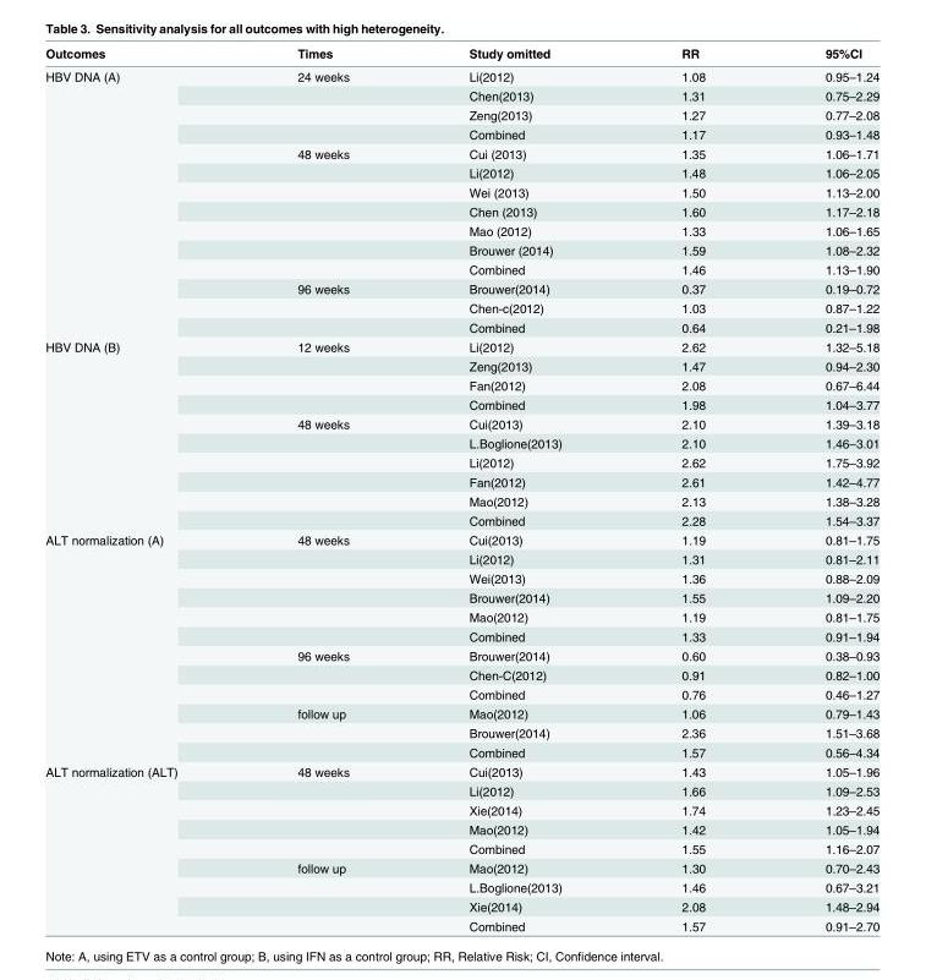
<table><thead><tr><td>Outcomes</td><td>Times</td><td>Study omitted</td><td>RR</td><td>95%CI</td></tr></thead><tbody><tr><td rowspan="14">HBV DNA (A)</td><td>24 weeks</td><td>Li(2012)</td><td>1.08</td><td>0.95–1.24</td></tr><tr><td></td><td>Chen(2013)</td><td>1.31</td><td>0.75–2.29</td></tr><tr><td></td><td>Zeng(2013)</td><td>1.27</td><td>0.77–2.08</td></tr><tr><td></td><td>Combined</td><td>1.17</td><td>0.93–1.48</td></tr><tr><td>48 weeks</td><td>Cui (2013)</td><td>1.35</td><td>1.06–1.71</td></tr><tr><td></td><td>Li(2012)</td><td>1.48</td><td>1.06–2.05</td></tr><tr><td></td><td>Wei (2013)</td><td>1.50</td><td>1.13–2.00</td></tr><tr><td></td><td>Chen (2013)</td><td>1.60</td><td>1.17–2.18</td></tr><tr><td></td><td>Mao (2012)</td><td>1.33</td><td>1.06–1.65</td></tr><tr><td></td><td>Brouwer (2014)</td><td>1.59</td><td>1.08–2.32</td></tr><tr><td></td><td>Combined</td><td>1.46</td><td>1.13–1.90</td></tr><tr><td>96 weeks</td><td>Brouwer(2014)</td><td>0.37</td><td>0.19–0.72</td></tr><tr><td></td><td>Chen-c(2012)</td><td>1.03</td><td>0.87–1.22</td></tr><tr><td></td><td>Combined</td><td>0.64</td><td>0.21–1.98</td></tr><tr><td rowspan="10">HBV DNA (B)</td><td>12 weeks</td><td>Li(2012)</td><td>2.62</td><td>1.32–5.18</td></tr><tr><td></td><td>Zeng(2013)</td><td>1.47</td><td>0.94–2.30</td></tr><tr><td></td><td>Fan(2012)</td><td>2.08</td><td>0.67–6.44</td></tr><tr><td></td><td>Combined</td><td>1.98</td><td>1.04–3.77</td></tr><tr><td>48 weeks</td><td>Cui(2013)</td><td>2.10</td><td>1.39–3.18</td></tr><tr><td></td><td>L.Boglione(2013)</td><td>2.10</td><td>1.46–3.01</td></tr><tr><td></td><td>Li(2012)</td><td>2.62</td><td>1.75–3.92</td></tr><tr><td></td><td>Fan(2012)</td><td>2.61</td><td>1.42–4.77</td></tr><tr><td></td><td>Mao(2012)</td><td>2.13</td><td>1.38–3.28</td></tr><tr><td></td><td>Combined</td><td>2.28</td><td>1.54–3.37</td></tr><tr><td rowspan="12">ALT normalization (A)</td><td>48 weeks</td><td>Cui(2013)</td><td>1.19</td><td>0.81–1.75</td></tr><tr><td></td><td>Li(2012)</td><td>1.31</td><td>0.81–2.11</td></tr><tr><td></td><td>Wei(2013)</td><td>1.36</td><td>0.88–2.09</td></tr><tr><td></td><td>Brouwer(2014)</td><td>1.55</td><td>1.09–2.20</td></tr><tr><td></td><td>Mao(2012)</td><td>1.19</td><td>0.81–1.75</td></tr><tr><td></td><td>Combined</td><td>1.33</td><td>0.91–1.94</td></tr><tr><td>96 weeks</td><td>Brouwer(2014)</td><td>0.60</td><td>0.38–0.93</td></tr><tr><td></td><td>Chen-C(2012)</td><td>0.91</td><td>0.82–1.00</td></tr><tr><td></td><td>Combined</td><td>0.76</td><td>0.46–1.27</td></tr><tr><td>follow up</td><td>Mao(2012)</td><td>1.06</td><td>0.79–1.43</td></tr><tr><td></td><td>Brouwer(2014)</td><td>2.36</td><td>1.51–3.68</td></tr><tr><td></td><td>Combined</td><td>1.57</td><td>0.56–4.34</td></tr><tr><td rowspan="9">ALT normalization (ALT)</td><td>48 weeks</td><td>Cui(2013)</td><td>1.43</td><td>1.05–1.96</td></tr><tr><td></td><td>Li(2012)</td><td>1.66</td><td>1.09–2.53</td></tr><tr><td></td><td>Xie(2014)</td><td>1.74</td><td>1.23–2.45</td></tr><tr><td></td><td>Mao(2012)</td><td>1.42</td><td>1.05–1.94</td></tr><tr><td></td><td>Combined</td><td>1.55</td><td>1.16–2.07</td></tr><tr><td>follow up</td><td>Mao(2012)</td><td>1.30</td><td>0.70–2.43</td></tr><tr><td></td><td>L.Boglione(2013)</td><td>1.46</td><td>0.67–3.21</td></tr><tr><td></td><td>Xie(2014)</td><td>2.08</td><td>1.48–2.94</td></tr><tr><td></td><td>Combined</td><td>1.57</td><td>0.91–2.70</td></tr></tbody></table>